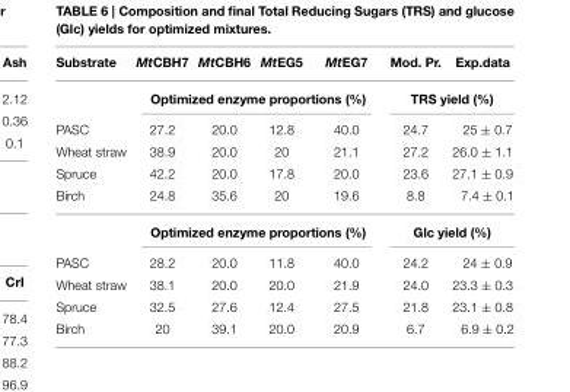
<table><thead><tr><td>Substrate</td><td>MtCBH7</td><td>MtCBH6</td><td>MtEG5</td><td>MtEG7</td><td>Mod. Pr.</td><td>Exp.data</td></tr></thead><tbody><tr><td></td><td colspan="4">Optimized enzyme proportions (%)</td><td colspan="2">TRS yield (%)</td></tr><tr><td>PASC</td><td>27.2</td><td>20.0</td><td>12.8</td><td>40.0</td><td>24.7</td><td>25 ± 0.7</td></tr><tr><td>Wheat straw</td><td>38.9</td><td>20.0</td><td>20</td><td>21.1</td><td>27.2</td><td>26.0 ± 1.1</td></tr><tr><td>Spruce</td><td>42.2</td><td>20.0</td><td>17.8</td><td>20.0</td><td>23.6</td><td>27.1 ± 0.9</td></tr><tr><td rowspan="2">Birch</td><td>24.8</td><td>35.6</td><td>20</td><td>19.6</td><td>8.8</td><td>7.4 ± 0.1</td></tr><tr><td colspan="4">Optimized enzyme proportions (%)</td><td colspan="2">Glc yield (%)</td></tr><tr><td>PASC</td><td>28.2</td><td>20.0</td><td>11.8</td><td>40.0</td><td>24.2</td><td>24 ± 0.9</td></tr><tr><td>Wheat straw</td><td>38.1</td><td>20.0</td><td>20.0</td><td>21.9</td><td>24.0</td><td>23.3 ± 0.3</td></tr><tr><td>Spruce</td><td>32.5</td><td>27.6</td><td>12.4</td><td>27.5</td><td>21.8</td><td>23.1 ± 0.8</td></tr><tr><td>Birch</td><td>20</td><td>39.1</td><td>20.0</td><td>20.9</td><td>6.7</td><td>6.9 ± 0.2</td></tr></tbody></table>